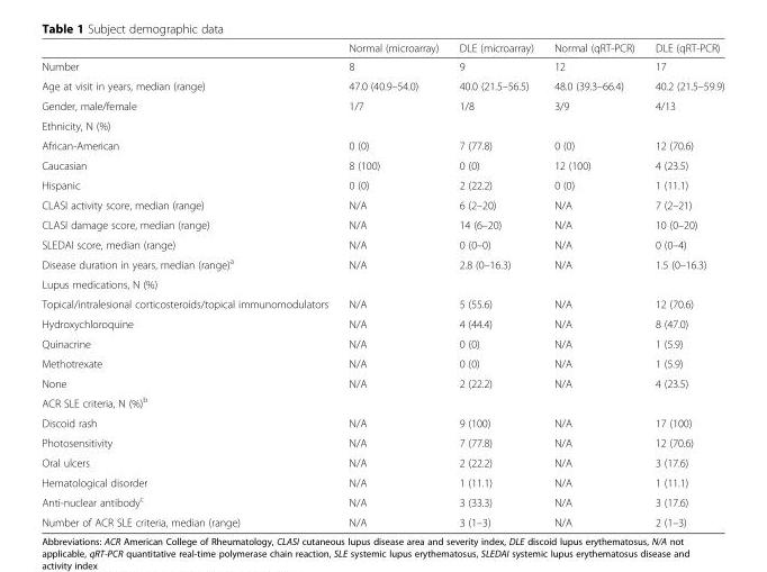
<table><thead><tr><td></td><td>Normal (microarray)</td><td>DLE (microarray)</td><td>Normal (qRT-PCR)</td><td>DLE (qRT-PCR)</td></tr></thead><tbody><tr><td>Number</td><td>8</td><td>9</td><td>12</td><td>17</td></tr><tr><td>Age at visit in years, median (range)</td><td>47.0 (40.9–54.0)</td><td>40.0 (21.5–56.5)</td><td>48.0 (39.3–66.4)</td><td>40.2 (21.5–59.9)</td></tr><tr><td>Gender, male/female</td><td>1/7</td><td>1/8</td><td>3/9</td><td>4/13</td></tr><tr><td colspan="5">Ethnicity, N (%)</td></tr><tr><td>African-American</td><td>0 (0)</td><td>7 (77.8)</td><td>0 (0)</td><td>12 (70.6)</td></tr><tr><td>Caucasian</td><td>8 (100)</td><td>0 (0)</td><td>12 (100)</td><td>4 (23.5)</td></tr><tr><td>Hispanic</td><td>0 (0)</td><td>2 (22.2)</td><td>0 (0)</td><td>1 (11.1)</td></tr><tr><td>CLASI activity score, median (range)</td><td>N/A</td><td>6 (2–20)</td><td>N/A</td><td>7 (2–21)</td></tr><tr><td>CLASI damage score, median (range)</td><td>N/A</td><td>14 (6–20)</td><td>N/A</td><td>10 (0–20)</td></tr><tr><td>SLEDAI score, median (range)</td><td>N/A</td><td>0 (0–0)</td><td>N/A</td><td>0 (0–4)</td></tr><tr><td>Disease duration in years, median (range)<sup>a</sup></td><td>N/A</td><td>2.8 (0–16.3)</td><td>N/A</td><td>1.5 (0–16.3)</td></tr><tr><td colspan="5">Lupus medications, N (%)</td></tr><tr><td>Topical/intralesional corticosteroids/topical immunomodulators</td><td>N/A</td><td>5 (55.6)</td><td>N/A</td><td>12 (70.6)</td></tr><tr><td>Hydroxychloroquine</td><td>N/A</td><td>4 (44.4)</td><td>N/A</td><td>8 (47.0)</td></tr><tr><td>Quinacrine</td><td>N/A</td><td>0 (0)</td><td>N/A</td><td>1 (5.9)</td></tr><tr><td>Methotrexate</td><td>N/A</td><td>0 (0)</td><td>N/A</td><td>1 (5.9)</td></tr><tr><td>None</td><td>N/A</td><td>2 (22.2)</td><td>N/A</td><td>4 (23.5)</td></tr><tr><td colspan="5">ACR SLE criteria, N (%)<sup>b</sup></td></tr><tr><td>Discoid rash</td><td>N/A</td><td>9 (100)</td><td>N/A</td><td>17 (100)</td></tr><tr><td>Photosensitivity</td><td>N/A</td><td>7 (77.8)</td><td>N/A</td><td>12 (70.6)</td></tr><tr><td>Oral ulcers</td><td>N/A</td><td>2 (22.2)</td><td>N/A</td><td>3 (17.6)</td></tr><tr><td>Hematological disorder</td><td>N/A</td><td>1 (11.1)</td><td>N/A</td><td>1 (11.1)</td></tr><tr><td>Anti-nuclear antibody<sup>c</sup></td><td>N/A</td><td>3 (33.3)</td><td>N/A</td><td>3 (17.6)</td></tr><tr><td>Number of ACR SLE criteria, median (range)</td><td>N/A</td><td>3 (1–3)</td><td>N/A</td><td>2 (1–3)</td></tr></tbody></table>